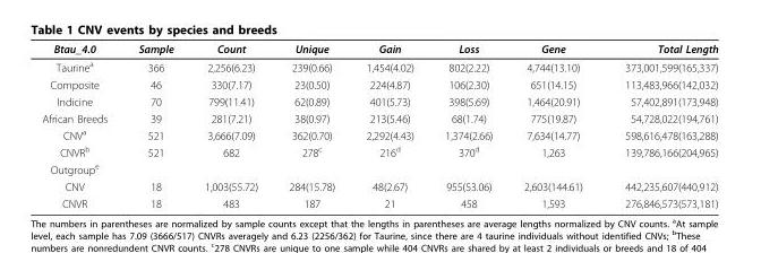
<table><thead><tr><td>Btau_4.0</td><td>Sample</td><td>Count</td><td>Unique</td><td>Gain</td><td>Loss</td><td>Gene</td><td>Total Length</td></tr></thead><tbody><tr><td>Taurine<sup>a</sup></td><td>366</td><td>2,256(6.23)</td><td>239(0.66)</td><td>1,454(4.02)</td><td>802(2.22)</td><td>4,744(13.10)</td><td>373,001,599(165,337)</td></tr><tr><td>Composite</td><td>46</td><td>330(7.17)</td><td>23(0.50)</td><td>224(4.87)</td><td>106(2.30)</td><td>651(14.15)</td><td>113,483,966(142,032)</td></tr><tr><td>Indicine</td><td>70</td><td>799(11.41)</td><td>62(0.89)</td><td>401(5.73)</td><td>398(5.69)</td><td>1,464(20.91)</td><td>57,402,891(173,948)</td></tr><tr><td>African Breeds</td><td>39</td><td>281(7.21)</td><td>38(0.97)</td><td>213(5.46)</td><td>68(1.74)</td><td>775(19.87)</td><td>54,728,022(194,761)</td></tr><tr><td>CNV<sup>a</sup></td><td>521</td><td>3,666(7.09)</td><td>362(0.70)</td><td>2,292(4.43)</td><td>1,374(2.66)</td><td>7,634(14.77)</td><td>598,616,478(163,288)</td></tr><tr><td>CNVR<sup>b</sup></td><td>521</td><td>682</td><td>278<sup>c</sup></td><td>216<sup>d</sup></td><td>370<sup>d</sup></td><td>1,263</td><td>139,786,166(204,965)</td></tr><tr><td colspan="8">Outgroup<sup>e</sup></td></tr><tr><td>CNV</td><td>18</td><td>1,003(55.72)</td><td>284(15.78)</td><td>48(2.67)</td><td>955(53.06)</td><td>2,603(144.61)</td><td>442,235,607(440,912)</td></tr><tr><td>CNVR</td><td>18</td><td>483</td><td>187</td><td>21</td><td>458</td><td>1,593</td><td>276,846,573(573,181)</td></tr></tbody></table>